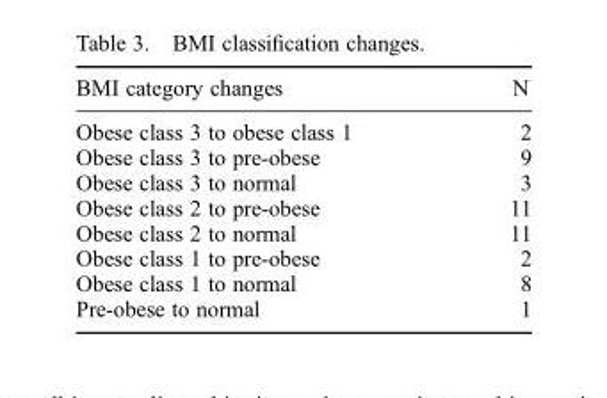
<table><thead><tr><td>BMI category changes</td><td>N</td></tr></thead><tbody><tr><td>Obese class 3 to obese class 1</td><td>2</td></tr><tr><td>Obese class 3 to pre-obese</td><td>9</td></tr><tr><td>Obese class 3 to normal</td><td>3</td></tr><tr><td>Obese class 2 to pre-obese</td><td>11</td></tr><tr><td>Obese class 2 to normal</td><td>11</td></tr><tr><td>Obese class 1 to pre-obese</td><td>2</td></tr><tr><td>Obese class 1 to normal</td><td>8</td></tr><tr><td>Pre-obese to normal</td><td>1</td></tr></tbody></table>